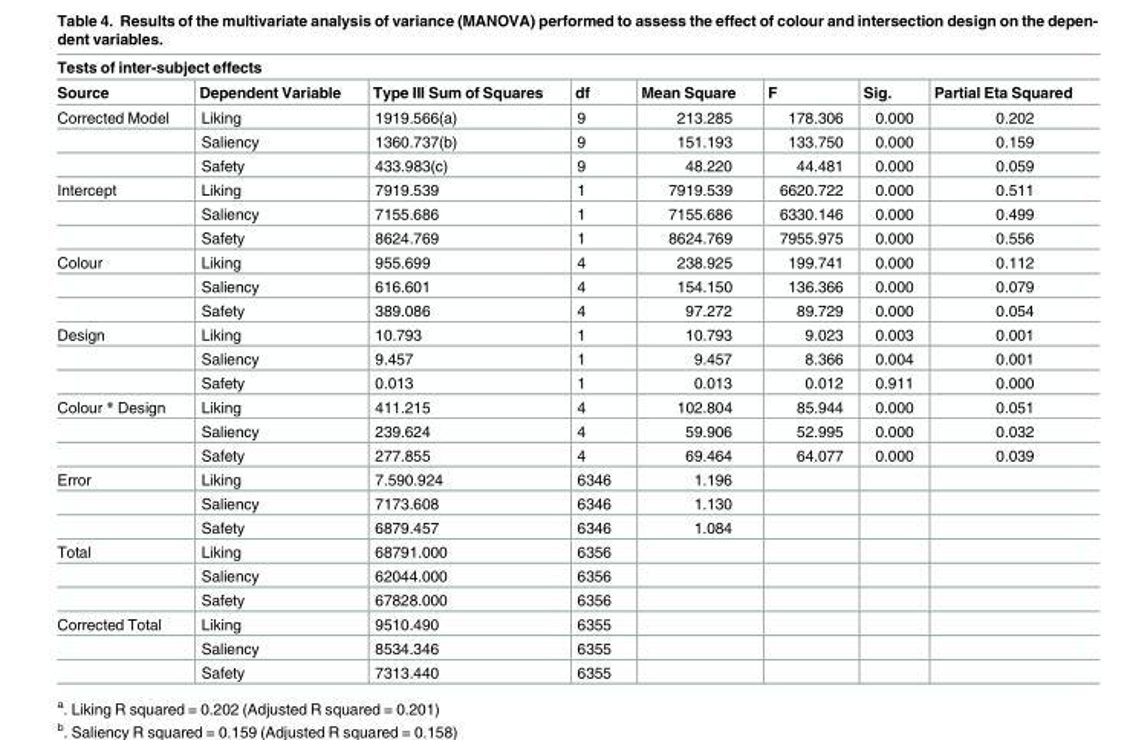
<table><thead><tr><td colspan="8">Tests of inter-subject effects</td></tr><tr><td>Source</td><td>Dependent Variable</td><td>Type III Sum of Squares</td><td>df</td><td>Mean Square</td><td>F</td><td>Sig.</td><td>Partial Eta Squared</td></tr></thead><tbody><tr><td rowspan="3">Corrected Model</td><td>Liking</td><td>1919.566(a)</td><td>9</td><td>213.285</td><td>178.306</td><td>0.000</td><td>0.202</td></tr><tr><td>Saliency</td><td>1360.737(b)</td><td>9</td><td>151.193</td><td>133.750</td><td>0.000</td><td>0.159</td></tr><tr><td>Safety</td><td>433.983(c)</td><td>9</td><td>48.220</td><td>44.481</td><td>0.000</td><td>0.059</td></tr><tr><td rowspan="3">Intercept</td><td>Liking</td><td>7919.539</td><td>1</td><td>7919.539</td><td>6620.722</td><td>0.000</td><td>0.511</td></tr><tr><td>Saliency</td><td>7155.686</td><td>1</td><td>7155.686</td><td>6330.146</td><td>0.000</td><td>0.499</td></tr><tr><td>Safety</td><td>8624.769</td><td>1</td><td>8624.769</td><td>7955.975</td><td>0.000</td><td>0.556</td></tr><tr><td rowspan="3">Colour</td><td>Liking</td><td>955.699</td><td>4</td><td>238.925</td><td>199.741</td><td>0.000</td><td>0.112</td></tr><tr><td>Saliency</td><td>616.601</td><td>4</td><td>154.150</td><td>136.366</td><td>0.000</td><td>0.079</td></tr><tr><td>Safety</td><td>389.086</td><td>4</td><td>97.272</td><td>89.729</td><td>0.000</td><td>0.054</td></tr><tr><td rowspan="3">Design</td><td>Liking</td><td>10.793</td><td>1</td><td>10.793</td><td>9.023</td><td>0.003</td><td>0.001</td></tr><tr><td>Saliency</td><td>9.457</td><td>1</td><td>9.457</td><td>8.366</td><td>0.004</td><td>0.001</td></tr><tr><td>Safety</td><td>0.013</td><td>1</td><td>0.013</td><td>0.012</td><td>0.911</td><td>0.000</td></tr><tr><td rowspan="3">Colour * Design</td><td>Liking</td><td>411.215</td><td>4</td><td>102.804</td><td>85.944</td><td>0.000</td><td>0.051</td></tr><tr><td>Saliency</td><td>239.624</td><td>4</td><td>59.906</td><td>52.995</td><td>0.000</td><td>0.032</td></tr><tr><td>Safety</td><td>277.855</td><td>4</td><td>69.464</td><td>64.077</td><td>0.000</td><td>0.039</td></tr><tr><td rowspan="3">Error</td><td>Liking</td><td>7.590.924</td><td>6346</td><td>1.196</td><td></td><td></td><td></td></tr><tr><td>Saliency</td><td>7173.608</td><td>6346</td><td>1.130</td><td></td><td></td><td></td></tr><tr><td>Safety</td><td>6879.457</td><td>6346</td><td>1.084</td><td></td><td></td><td></td></tr><tr><td rowspan="3">Total</td><td>Liking</td><td>68791.000</td><td>6356</td><td></td><td></td><td></td><td></td></tr><tr><td>Saliency</td><td>62044.000</td><td>6356</td><td></td><td></td><td></td><td></td></tr><tr><td>Safety</td><td>67828.000</td><td>6356</td><td></td><td></td><td></td><td></td></tr><tr><td rowspan="3">Corrected Total</td><td>Liking</td><td>9510.490</td><td>6355</td><td></td><td></td><td></td><td></td></tr><tr><td>Saliency</td><td>8534.346</td><td>6355</td><td></td><td></td><td></td><td></td></tr><tr><td>Safety</td><td>7313.440</td><td>6355</td><td></td><td></td><td></td><td></td></tr></tbody></table>